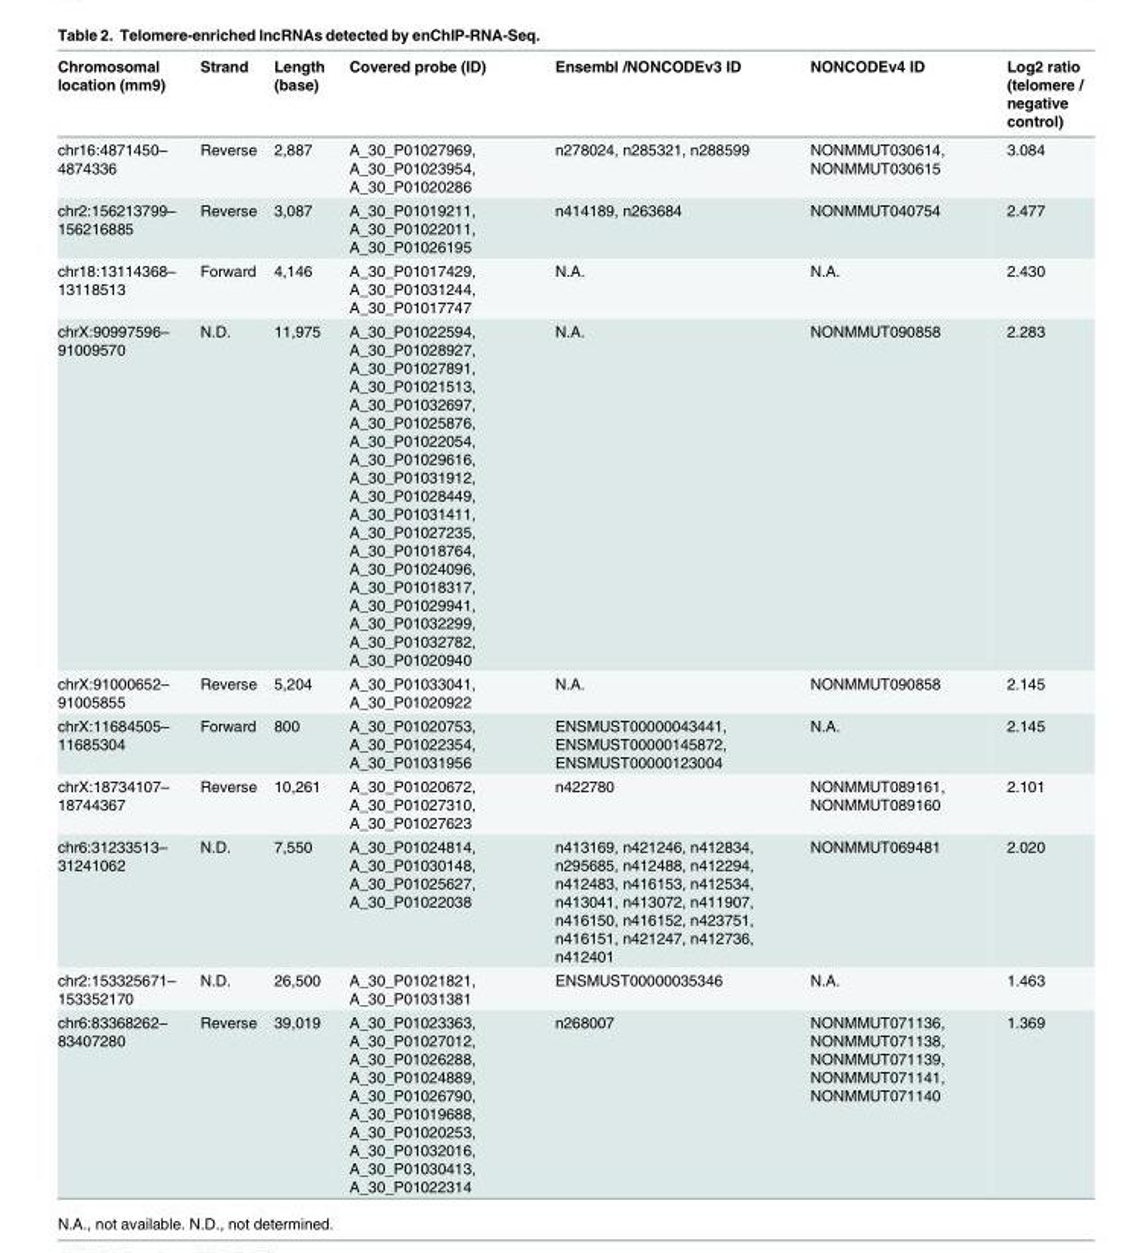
<table><thead><tr><td>Chromosomal location (mm9)</td><td>Strand</td><td>Length (base)</td><td>Covered probe (ID)</td><td>Ensembl /NONCODEv3 ID</td><td>NONCODEv4 ID</td><td>Log2 ratio (telomere / negative control)</td></tr></thead><tbody><tr><td>chr16:4871450– 4874336</td><td>Reverse</td><td>2,887</td><td>A_30_P01027969, A_30_P01023954, A_30_P01020286</td><td>n278024, n285321, n288599</td><td>NONMMUT030614, NONMMUT030615</td><td>3.084</td></tr><tr><td>chr2:156213799– 156216885</td><td>Reverse</td><td>3,087</td><td>A_30_P01019211, A_30_P01022011, A_30_P01026195</td><td>n414189, n263684</td><td>NONMMUT040754</td><td>2.477</td></tr><tr><td>chr18:13114368– 13118513</td><td>Forward</td><td>4,146</td><td>A_30_P01017429, A_30_P01031244, A_30_P01017747</td><td>N.A.</td><td>N.A.</td><td>2.430</td></tr><tr><td>chrX:90997596– 91009570</td><td>N.D.</td><td>11,975</td><td>A_30_P01022594, A_30_P01028927, A_30_P01027891, A_30_P01021513, A_30_P01032697, A_30_P01025876, A_30_P01022054, A_30_P01029616, A_30_P01031912, A_30_P01028449, A_30_P01031411, A_30_P01027235, A_30_P01018764, A_30_P01024096, A_30_P01018317, A_30_P01029941, A_30_P01032299, A_30_P01032782, A_30_P01020940</td><td>N.A.</td><td>NONMMUT090858</td><td>2.283</td></tr><tr><td>chrX:91000652– 91005855</td><td>Reverse</td><td>5,204</td><td>A_30_P01033041, A_30_P01020922</td><td>N.A.</td><td>NONMMUT090858</td><td>2.145</td></tr><tr><td>chrX:11684505– 11685304</td><td>Forward</td><td>800</td><td>A_30_P01020753, A_30_P01022354, A_30_P01031956</td><td>ENSMUST00000043441, ENSMUST00000145872, ENSMUST00000123004</td><td>N.A.</td><td>2.145</td></tr><tr><td>chrX:18734107– 18744367</td><td>Reverse</td><td>10,261</td><td>A_30_P01020672, A_30_P01027310, A_30_P01027623</td><td>n422780</td><td>NONMMUT089161, NONMMUT089160</td><td>2.101</td></tr><tr><td>chr6:31233513– 31241062</td><td>N.D.</td><td>7,550</td><td>A_30_P01024814, A_30_P01030148, A_30_P01025627, A_30_P01022038</td><td>n413169, n421246, n412834, n295685, n412488, n412294, n412483, n416153, n412534, n413041, n413072, n411907, n416150, n416152, n423751, n416151, n421247, n412736, n412401</td><td>NONMMUT069481</td><td>2.020</td></tr><tr><td>chr2:153325671– 153352170</td><td>N.D.</td><td>26,500</td><td>A_30_P01021821, A_30_P01031381</td><td>ENSMUST00000035346</td><td>N.A.</td><td>1.463</td></tr><tr><td>chr6:83368262– 83407280</td><td>Reverse</td><td>39,019</td><td>A_30_P01023363, A_30_P01027012, A_30_P01026288, A_30_P01024889, A_30_P01026790, A_30_P01019688, A_30_P01020253, A_30_P01032016, A_30_P01030413, A_30_P01022314</td><td>n268007</td><td>NONMMUT071136, NONMMUT071138, NONMMUT071139, NONMMUT071141, NONMMUT071140</td><td>1.369</td></tr></tbody></table>